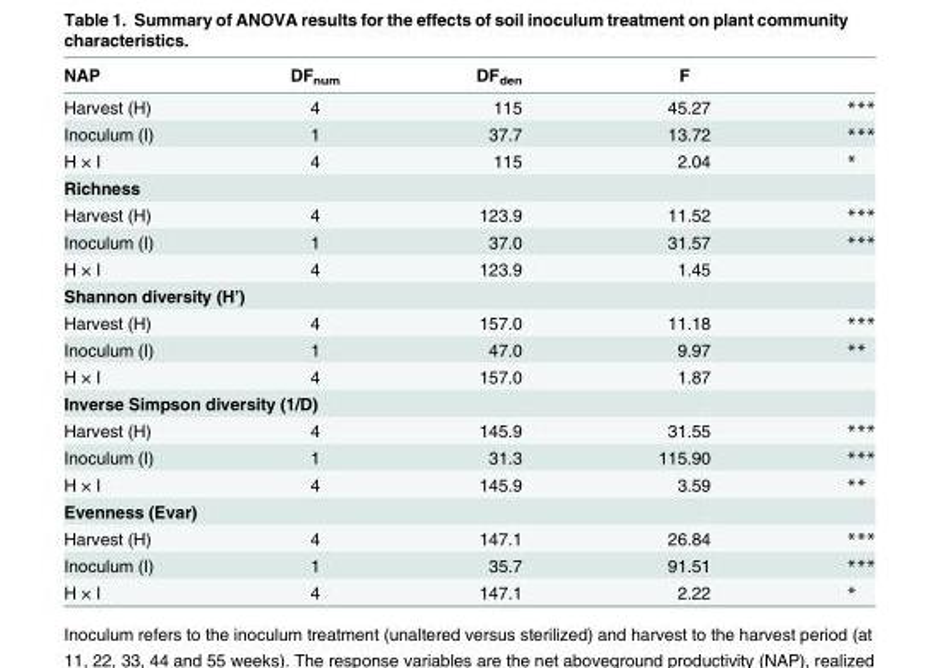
<table><thead><tr><td>NAP</td><td>DF<sub>num</sub></td><td>DF<sub>den</sub></td><td>F</td><td></td></tr></thead><tbody><tr><td>Harvest (H)</td><td>4</td><td>115</td><td>45.27</td><td>***</td></tr><tr><td>Inoculum (I)</td><td>1</td><td>37.7</td><td>13.72</td><td>***</td></tr><tr><td>H × I</td><td>4</td><td>115</td><td>2.04</td><td>*</td></tr><tr><td colspan="5">Richness</td></tr><tr><td>Harvest (H)</td><td>4</td><td>123.9</td><td>11.52</td><td>***</td></tr><tr><td>Inoculum (I)</td><td>1</td><td>37.0</td><td>31.57</td><td>***</td></tr><tr><td>H × I</td><td>4</td><td>123.9</td><td>1.45</td><td></td></tr><tr><td colspan="5">Shannon diversity (H’)</td></tr><tr><td>Harvest (H)</td><td>4</td><td>157.0</td><td>11.18</td><td>***</td></tr><tr><td>Inoculum (I)</td><td>1</td><td>47.0</td><td>9.97</td><td>**</td></tr><tr><td>H × I</td><td>4</td><td>157.0</td><td>1.87</td><td></td></tr><tr><td colspan="5">Inverse Simpson diversity (1/D)</td></tr><tr><td>Harvest (H)</td><td>4</td><td>145.9</td><td>31.55</td><td>***</td></tr><tr><td>Inoculum (I)</td><td>1</td><td>31.3</td><td>115.90</td><td>***</td></tr><tr><td>H × I</td><td>4</td><td>145.9</td><td>3.59</td><td>**</td></tr><tr><td colspan="5">Evenness (Evar)</td></tr><tr><td>Harvest (H)</td><td>4</td><td>147.1</td><td>26.84</td><td>***</td></tr><tr><td>Inoculum (I)</td><td>1</td><td>35.7</td><td>91.51</td><td>***</td></tr><tr><td>H × I</td><td>4</td><td>147.1</td><td>2.22</td><td>*</td></tr></tbody></table>